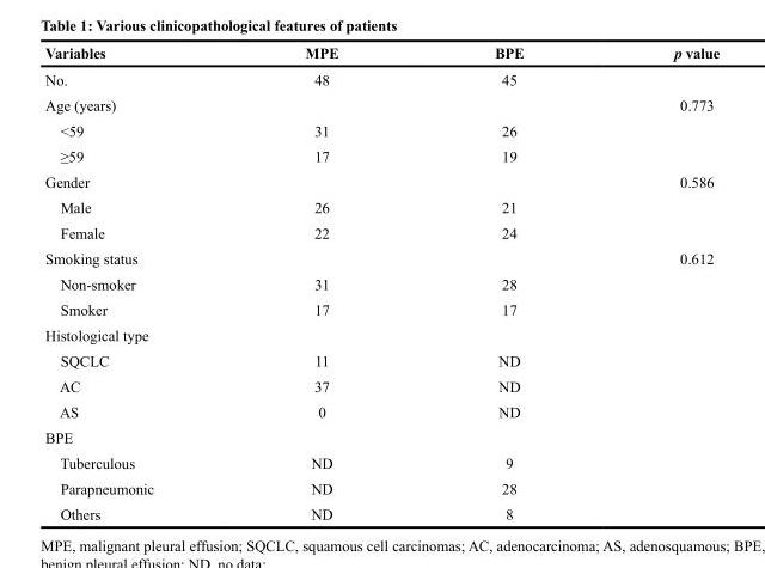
<table><thead><tr><td>Variables</td><td>MPE</td><td>BPE</td><td>p value</td></tr></thead><tbody><tr><td>No.</td><td>48</td><td>45</td><td></td></tr><tr><td>Age (years)</td><td></td><td></td><td>0.773</td></tr><tr><td>&lt;59</td><td>31</td><td>26</td><td></td></tr><tr><td>≥59</td><td>17</td><td>19</td><td></td></tr><tr><td>Gender</td><td></td><td></td><td>0.586</td></tr><tr><td>Male</td><td>26</td><td>21</td><td></td></tr><tr><td>Female</td><td>22</td><td>24</td><td></td></tr><tr><td>Smoking status</td><td></td><td></td><td>0.612</td></tr><tr><td>Non-smoker</td><td>31</td><td>28</td><td></td></tr><tr><td>Smoker</td><td>17</td><td>17</td><td></td></tr><tr><td colspan="4">Histological type</td></tr><tr><td>SQCLC</td><td>11</td><td>ND</td><td></td></tr><tr><td>AC</td><td>37</td><td>ND</td><td></td></tr><tr><td>AS</td><td>0</td><td>ND</td><td></td></tr><tr><td colspan="4">BPE</td></tr><tr><td>Tuberculous</td><td>ND</td><td>9</td><td></td></tr><tr><td>Parapneumonic</td><td>ND</td><td>28</td><td></td></tr><tr><td>Others</td><td>ND</td><td>8</td><td></td></tr></tbody></table>